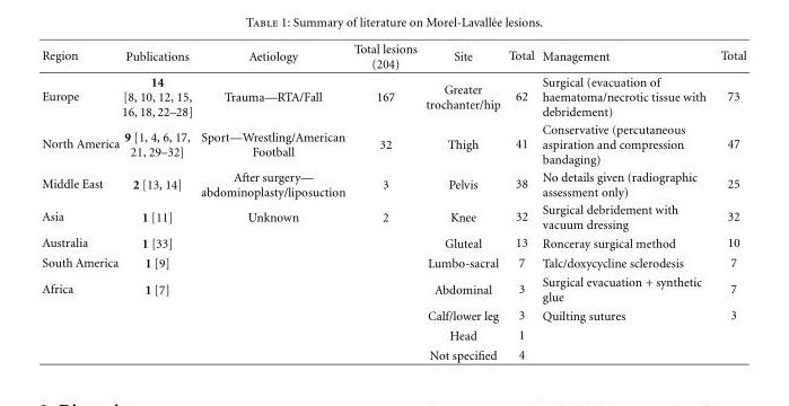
<table><thead><tr><td>Region</td><td>Publications</td><td>Aetiology</td><td>Total lesions (204)</td><td>Site</td><td>Total</td><td>Management</td><td>Total</td></tr></thead><tbody><tr><td>Europe</td><td>14 [8, 10, 12, 15, 16, 18, 22–28]</td><td>Trauma—RTA/Fall</td><td>167</td><td>Greater trochanter/hip</td><td>62</td><td>Surgical (evacuation of haematoma/necrotic tissue with debridement)</td><td>73</td></tr><tr><td>North America</td><td>9 [1, 4, 6, 17, 21, 29–32]</td><td>Sport—Wrestling/American Football</td><td>32</td><td>Thigh</td><td>41</td><td>Conservative (percutaneous aspiration and compression bandaging)</td><td>47</td></tr><tr><td>Middle East</td><td>2 [13, 14]</td><td>After surgery— abdominoplasty/liposuction</td><td>3</td><td>Pelvis</td><td>38</td><td>No details given (radiographic assessment only)</td><td>25</td></tr><tr><td>Asia</td><td>1 [11]</td><td>Unknown</td><td>2</td><td>Knee</td><td>32</td><td>Surgical debridement with vacuum dressing</td><td>32</td></tr><tr><td>Australia</td><td>1 [33]</td><td></td><td></td><td>Gluteal</td><td>13</td><td>Ronceray surgical method</td><td>10</td></tr><tr><td>South America</td><td>1 [9]</td><td></td><td></td><td>Lumbo-sacral</td><td>7</td><td>Talc/doxycycline sclerodesis</td><td>7</td></tr><tr><td rowspan="4">Africa</td><td>1 [7]</td><td></td><td></td><td>Abdominal</td><td>3</td><td>Surgical evacuation + synthetic glue</td><td>7</td></tr><tr><td></td><td></td><td></td><td>Calf/lower leg</td><td>3</td><td>Quilting sutures</td><td>3</td></tr><tr><td></td><td></td><td></td><td>Head</td><td>1</td><td></td><td></td></tr><tr><td></td><td></td><td></td><td>Not specified</td><td>4</td><td></td><td></td></tr></tbody></table>